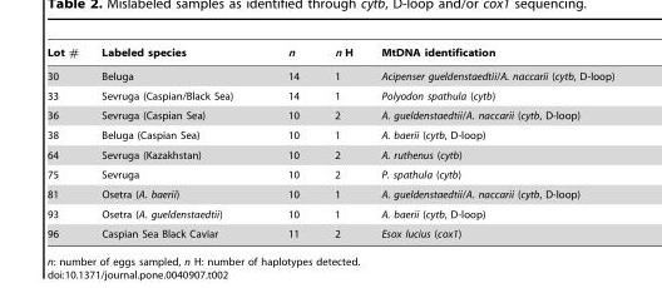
<table><thead><tr><td>Lot #</td><td>Labeled species</td><td>n</td><td>n H</td><td>MtDNA identification</td></tr></thead><tbody><tr><td>30</td><td>Beluga</td><td>14</td><td>1</td><td>Acipenser gueldenstaedtii/A. naccarii (cytb, D-loop)</td></tr><tr><td>33</td><td>Sevruga (Caspian/Black Sea)</td><td>14</td><td>1</td><td>Polyodon spathula (cytb)</td></tr><tr><td>36</td><td>Sevruga (Caspian Sea)</td><td>10</td><td>2</td><td>A. gueldenstaedtii/A. naccarii (cytb, D-loop)</td></tr><tr><td>38</td><td>Beluga (Caspian Sea)</td><td>10</td><td>1</td><td>A. baerii (cytb, D-loop)</td></tr><tr><td>64</td><td>Sevruga (Kazakhstan)</td><td>10</td><td>2</td><td>A. ruthenus (cytb)</td></tr><tr><td>75</td><td>Sevruga</td><td>10</td><td>2</td><td>P. spathula (cytb)</td></tr><tr><td>81</td><td>Osetra (A. baerii)</td><td>10</td><td>1</td><td>A. gueldenstaedtii/A. naccarii (cytb, D-loop)</td></tr><tr><td>93</td><td>Osetra (A. gueldenstaedtii)</td><td>10</td><td>1</td><td>A. baerii (cytb, D-loop)</td></tr><tr><td>96</td><td>Caspian Sea Black Caviar</td><td>11</td><td>2</td><td>Esox lucius (cox1)</td></tr></tbody></table>